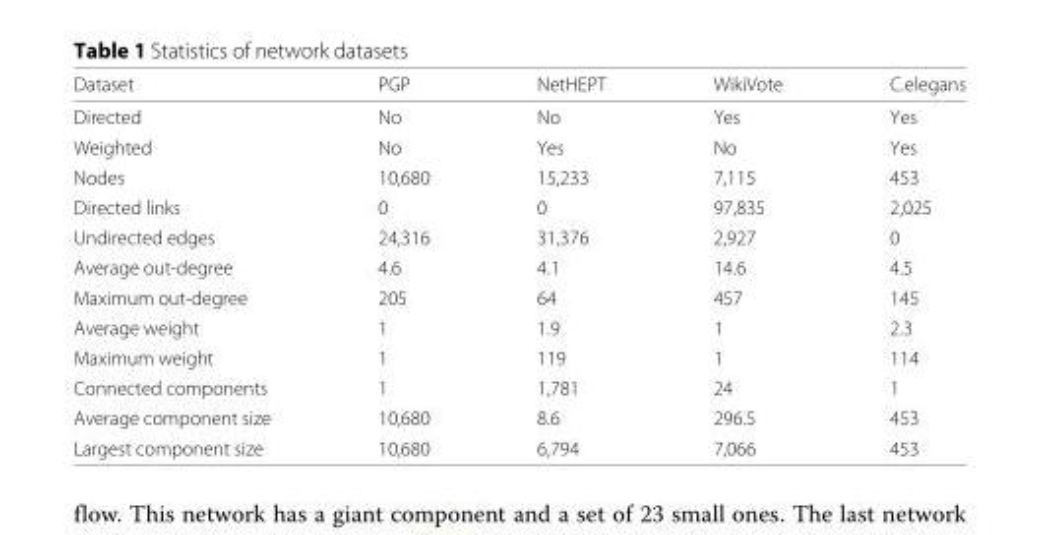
<table><thead><tr><td>Dataset</td><td>PGP</td><td>NetHEPT</td><td>WikiVote</td><td>C.elegans</td></tr></thead><tbody><tr><td>Directed</td><td>No</td><td>No</td><td>Yes</td><td>Yes</td></tr><tr><td>Weighted</td><td>No</td><td>Yes</td><td>No</td><td>Yes</td></tr><tr><td>Nodes</td><td>10,680</td><td>15,233</td><td>7,115</td><td>453</td></tr><tr><td>Directed links</td><td>0</td><td>0</td><td>97,835</td><td>2,025</td></tr><tr><td>Undirected edges</td><td>24,316</td><td>31,376</td><td>2,927</td><td>0</td></tr><tr><td>Average out-degree</td><td>4.6</td><td>4.1</td><td>14.6</td><td>4.5</td></tr><tr><td>Maximum out-degree</td><td>205</td><td>64</td><td>457</td><td>145</td></tr><tr><td>Average weight</td><td>1</td><td>1.9</td><td>1</td><td>2.3</td></tr><tr><td>Maximum weight</td><td>1</td><td>119</td><td>1</td><td>114</td></tr><tr><td>Connected components</td><td>1</td><td>1,781</td><td>24</td><td>1</td></tr><tr><td>Average component size</td><td>10,680</td><td>8.6</td><td>296.5</td><td>453</td></tr><tr><td>Largest component size</td><td>10,680</td><td>6,794</td><td>7,066</td><td>453</td></tr></tbody></table>